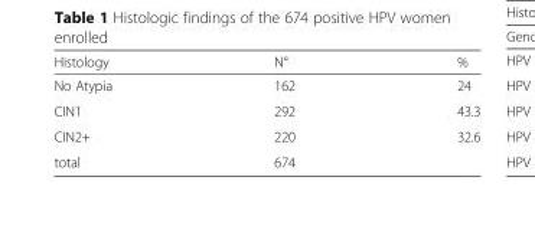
<table><thead><tr><td>Histology</td><td>N°</td><td>%</td></tr></thead><tbody><tr><td>No Atypia</td><td>162</td><td>24</td></tr><tr><td>CIN1</td><td>292</td><td>43.3</td></tr><tr><td>CIN2+</td><td>220</td><td>32.6</td></tr><tr><td>total</td><td>674</td><td></td></tr></tbody></table>